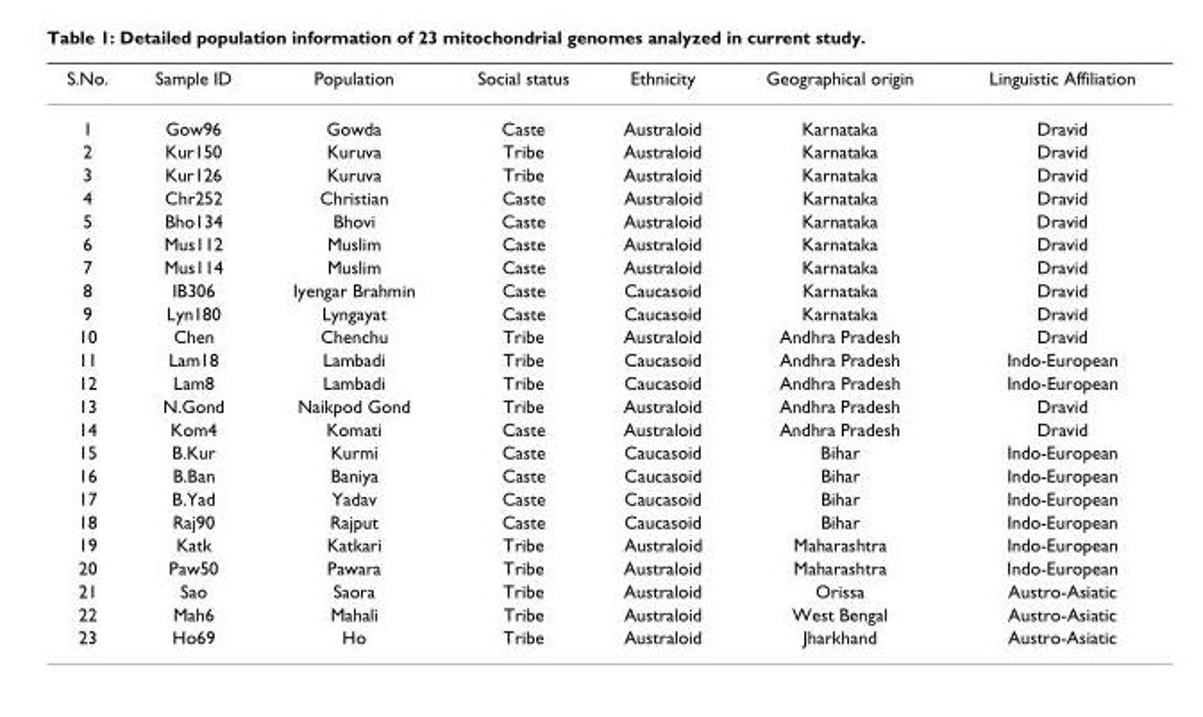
<table><thead><tr><td>S.No.</td><td>Sample ID</td><td>Population</td><td>Social status</td><td>Ethnicity</td><td>Geographical origin</td><td>Linguistic Affiliation</td></tr></thead><tbody><tr><td>1</td><td>Gow96</td><td>Gowda</td><td>Caste</td><td>Australoid</td><td>Karnataka</td><td>Dravid</td></tr><tr><td>2</td><td>Kur150</td><td>Kuruva</td><td>Tribe</td><td>Australoid</td><td>Karnataka</td><td>Dravid</td></tr><tr><td>3</td><td>Kur126</td><td>Kuruva</td><td>Tribe</td><td>Australoid</td><td>Karnataka</td><td>Dravid</td></tr><tr><td>4</td><td>Chr252</td><td>Christian</td><td>Caste</td><td>Australoid</td><td>Karnataka</td><td>Dravid</td></tr><tr><td>5</td><td>Bho134</td><td>Bhovi</td><td>Caste</td><td>Australoid</td><td>Karnataka</td><td>Dravid</td></tr><tr><td>6</td><td>Mus112</td><td>Muslim</td><td>Caste</td><td>Australoid</td><td>Karnataka</td><td>Dravid</td></tr><tr><td>7</td><td>Mus114</td><td>Muslim</td><td>Caste</td><td>Australoid</td><td>Karnataka</td><td>Dravid</td></tr><tr><td>8</td><td>IB306</td><td>Iyengar Brahmin</td><td>Caste</td><td>Caucasoid</td><td>Karnataka</td><td>Dravid</td></tr><tr><td>9</td><td>Lyn180</td><td>Lyngayat</td><td>Caste</td><td>Caucasoid</td><td>Karnataka</td><td>Dravid</td></tr><tr><td>10</td><td>Chen</td><td>Chenchu</td><td>Tribe</td><td>Australoid</td><td>Andhra Pradesh</td><td>Dravid</td></tr><tr><td>11</td><td>Lam18</td><td>Lambadi</td><td>Tribe</td><td>Caucasoid</td><td>Andhra Pradesh</td><td>Indo-European</td></tr><tr><td>12</td><td>Lam8</td><td>Lambadi</td><td>Tribe</td><td>Caucasoid</td><td>Andhra Pradesh</td><td>Indo-European</td></tr><tr><td>13</td><td>N.Gond</td><td>Naikpod Gond</td><td>Tribe</td><td>Australoid</td><td>Andhra Pradesh</td><td>Dravid</td></tr><tr><td>14</td><td>Kom4</td><td>Komati</td><td>Caste</td><td>Australoid</td><td>Andhra Pradesh</td><td>Dravid</td></tr><tr><td>15</td><td>B.Kur</td><td>Kurmi</td><td>Caste</td><td>Caucasoid</td><td>Bihar</td><td>Indo-European</td></tr><tr><td>16</td><td>B.Ban</td><td>Baniya</td><td>Caste</td><td>Caucasoid</td><td>Bihar</td><td>Indo-European</td></tr><tr><td>17</td><td>B.Yad</td><td>Yadav</td><td>Caste</td><td>Caucasoid</td><td>Bihar</td><td>Indo-European</td></tr><tr><td>18</td><td>Raj90</td><td>Rajput</td><td>Caste</td><td>Caucasoid</td><td>Bihar</td><td>Indo-European</td></tr><tr><td>19</td><td>Katk</td><td>Katkari</td><td>Tribe</td><td>Australoid</td><td>Maharashtra</td><td>Indo-European</td></tr><tr><td>20</td><td>Paw50</td><td>Pawara</td><td>Tribe</td><td>Australoid</td><td>Maharashtra</td><td>Indo-European</td></tr><tr><td>21</td><td>Sao</td><td>Saora</td><td>Tribe</td><td>Australoid</td><td>Orissa</td><td>Austro-Asiatic</td></tr><tr><td>22</td><td>Mah6</td><td>Mahali</td><td>Tribe</td><td>Australoid</td><td>West Bengal</td><td>Austro-Asiatic</td></tr><tr><td>23</td><td>Ho69</td><td>Ho</td><td>Tribe</td><td>Australoid</td><td>Jharkhand</td><td>Austro-Asiatic</td></tr></tbody></table>